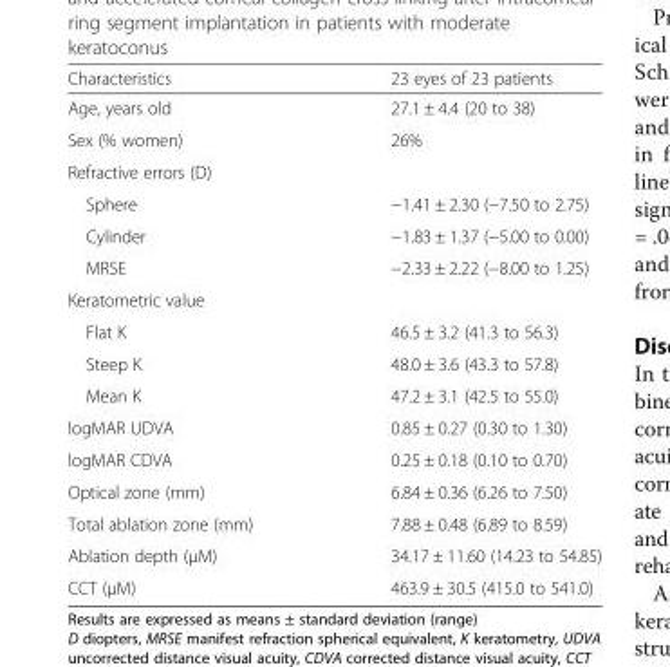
<table><thead><tr><td>Characteristics</td><td>23 eyes of 23 patients</td></tr></thead><tbody><tr><td>Age, years old</td><td>27.1 ± 4.4 (20 to 38)</td></tr><tr><td>Sex (% women)</td><td>26%</td></tr><tr><td colspan="2">Refractive errors (D)</td></tr><tr><td>Sphere</td><td>−1.41 ± 2.30 (−7.50 to 2.75)</td></tr><tr><td>Cylinder</td><td>−1.83 ± 1.37 (−5.00 to 0.00)</td></tr><tr><td>MRSE</td><td>−2.33 ± 2.22 (−8.00 to 1.25)</td></tr><tr><td colspan="2">Keratometric value</td></tr><tr><td>Flat K</td><td>46.5 ± 3.2 (41.3 to 56.3)</td></tr><tr><td>Steep K</td><td>48.0 ± 3.6 (43.3 to 57.8)</td></tr><tr><td>Mean K</td><td>47.2 ± 3.1 (42.5 to 55.0)</td></tr><tr><td>logMAR UDVA</td><td>0.85 ± 0.27 (0.30 to 1.30)</td></tr><tr><td>logMAR CDVA</td><td>0.25 ± 0.18 (0.10 to 0.70)</td></tr><tr><td>Optical zone (mm)</td><td>6.84 ± 0.36 (6.26 to 7.50)</td></tr><tr><td>Total ablation zone (mm)</td><td>7.88 ± 0.48 (6.89 to 8.59)</td></tr><tr><td>Ablation depth (μM)</td><td>34.17 ± 11.60 (14.23 to 54.85)</td></tr><tr><td>CCT (μM)</td><td>463.9 ± 30.5 (415.0 to 541.0)</td></tr></tbody></table>